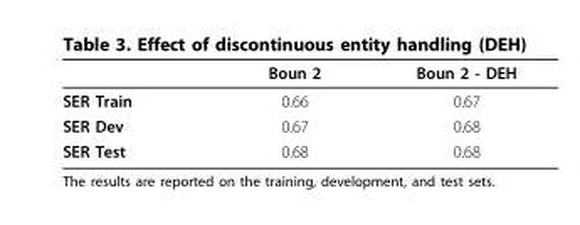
<table><thead><tr><td></td><td>Boun 2</td><td>Boun 2 - DEH</td></tr></thead><tbody><tr><td>SER Train</td><td>0.66</td><td>0.67</td></tr><tr><td>SER Dev</td><td>0.67</td><td>0.68</td></tr><tr><td>SER Test</td><td>0.68</td><td>0.68</td></tr></tbody></table>